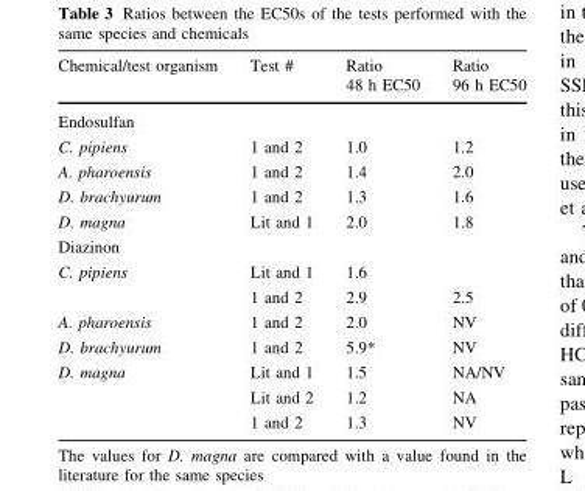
<table><thead><tr><td>Chemical/test organism</td><td>Test #</td><td>Ratio 48 h EC50</td><td>Ratio 96 h EC50</td></tr></thead><tbody><tr><td colspan="4">Endosulfan</td></tr><tr><td>C. pipiens</td><td>1 and 2</td><td>1.0</td><td>1.2</td></tr><tr><td>A. pharoensis</td><td>1 and 2</td><td>1.4</td><td>2.0</td></tr><tr><td>D. brachyurum</td><td>1 and 2</td><td>1.3</td><td>1.6</td></tr><tr><td>D. magna</td><td>Lit and 1</td><td>2.0</td><td>1.8</td></tr><tr><td colspan="4">Diazinon</td></tr><tr><td rowspan="2">C. pipiens</td><td>Lit and 1</td><td>1.6</td><td></td></tr><tr><td>1 and 2</td><td>2.9</td><td>2.5</td></tr><tr><td>A. pharoensis</td><td>1 and 2</td><td>2.0</td><td>NV</td></tr><tr><td>D. brachyurum</td><td>1 and 2</td><td>5.9*</td><td>NV</td></tr><tr><td rowspan="3">D. magna</td><td>Lit and 1</td><td>1.5</td><td>NA/NV</td></tr><tr><td>Lit and 2</td><td>1.2</td><td>NA</td></tr><tr><td>1 and 2</td><td>1.3</td><td>NV</td></tr></tbody></table>